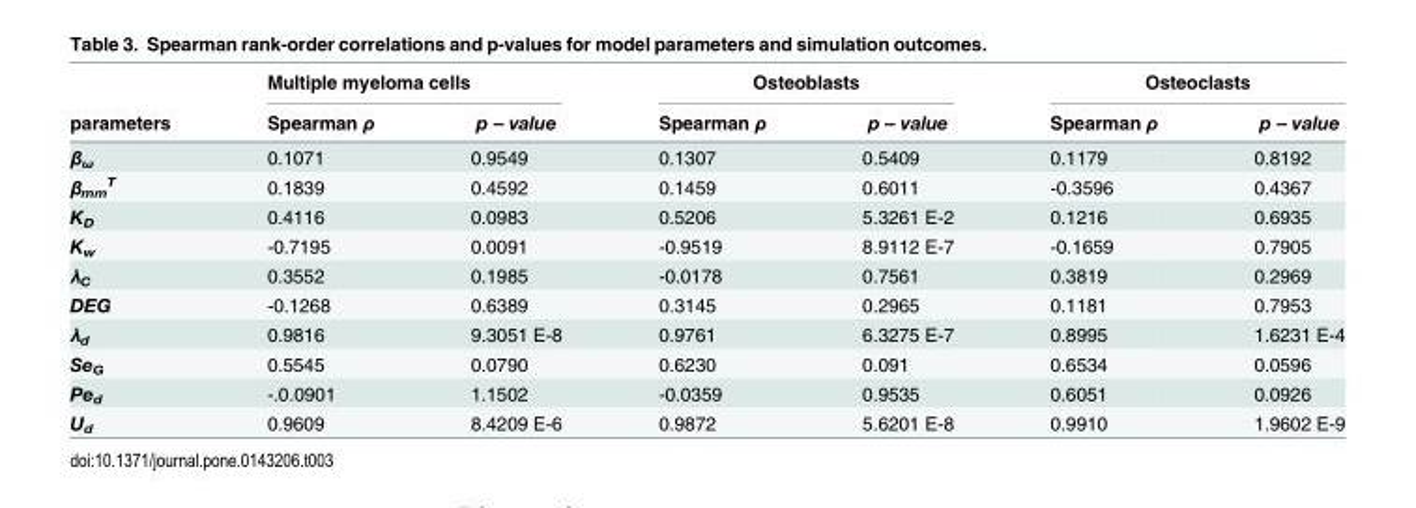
<table><thead><tr><td rowspan="2">parameters</td><td colspan="2">Multiple myeloma cells</td><td colspan="2">Osteoblasts</td><td colspan="2">Osteoclasts</td></tr><tr><td>Spearman ρ</td><td>p – value</td><td>Spearman ρ</td><td>p – value</td><td>Spearman ρ</td><td>p – value</td></tr></thead><tbody><tr><td>β<sub>ω</sub></td><td>0.1071</td><td>0.9549</td><td>0.1307</td><td>0.5409</td><td>0.1179</td><td>0.8192</td></tr><tr><td>β<sub>mm</sub> <sup>T</sup></td><td>0.1839</td><td>0.4592</td><td>0.1459</td><td>0.6011</td><td>-0.3596</td><td>0.4367</td></tr><tr><td>K<sub>D</sub></td><td>0.4116</td><td>0.0983</td><td>0.5206</td><td>5.3261 E-2</td><td>0.1216</td><td>0.6935</td></tr><tr><td>K<sub>w</sub></td><td>-0.7195</td><td>0.0091</td><td>-0.9519</td><td>8.9112 E-7</td><td>-0.1659</td><td>0.7905</td></tr><tr><td>λ<sub>C</sub></td><td>0.3552</td><td>0.1985</td><td>-0.0178</td><td>0.7561</td><td>0.3819</td><td>0.2969</td></tr><tr><td>DEG</td><td>-0.1268</td><td>0.6389</td><td>0.3145</td><td>0.2965</td><td>0.1181</td><td>0.7953</td></tr><tr><td>λ<sub>d</sub></td><td>0.9816</td><td>9.3051 E-8</td><td>0.9761</td><td>6.3275 E-7</td><td>0.8995</td><td>1.6231 E-4</td></tr><tr><td>Se<sub>G</sub></td><td>0.5545</td><td>0.0790</td><td>0.6230</td><td>0.091</td><td>0.6534</td><td>0.0596</td></tr><tr><td>Pe<sub>d</sub></td><td>-.0.0901</td><td>1.1502</td><td>-0.0359</td><td>0.9535</td><td>0.6051</td><td>0.0926</td></tr><tr><td>U<sub>d</sub></td><td>0.9609</td><td>8.4209 E-6</td><td>0.9872</td><td>5.6201 E-8</td><td>0.9910</td><td>1.9602 E-9</td></tr></tbody></table>